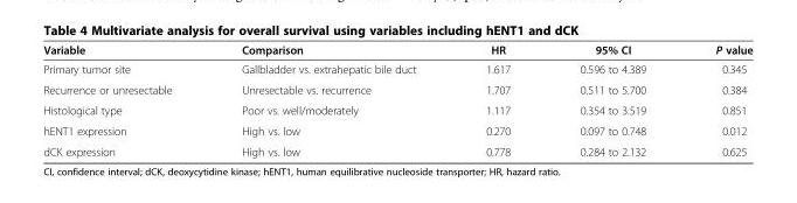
<table><thead><tr><td>Variable</td><td>Comparison</td><td>HR</td><td>95% CI</td><td>P value</td></tr></thead><tbody><tr><td>Primary tumor site</td><td>Gallbladder vs. extrahepatic bile duct</td><td>1.617</td><td>0.596 to 4.389</td><td>0.345</td></tr><tr><td>Recurrence or unresectable</td><td>Unresectable vs. recurrence</td><td>1.707</td><td>0.511 to 5.700</td><td>0.384</td></tr><tr><td>Histological type</td><td>Poor vs. well/moderately</td><td>1.117</td><td>0.354 to 3.519</td><td>0.851</td></tr><tr><td>hENT1 expression</td><td>High vs. low</td><td>0.270</td><td>0.097 to 0.748</td><td>0.012</td></tr><tr><td>dCK expression</td><td>High vs. low</td><td>0.778</td><td>0.284 to 2.132</td><td>0.625</td></tr></tbody></table>